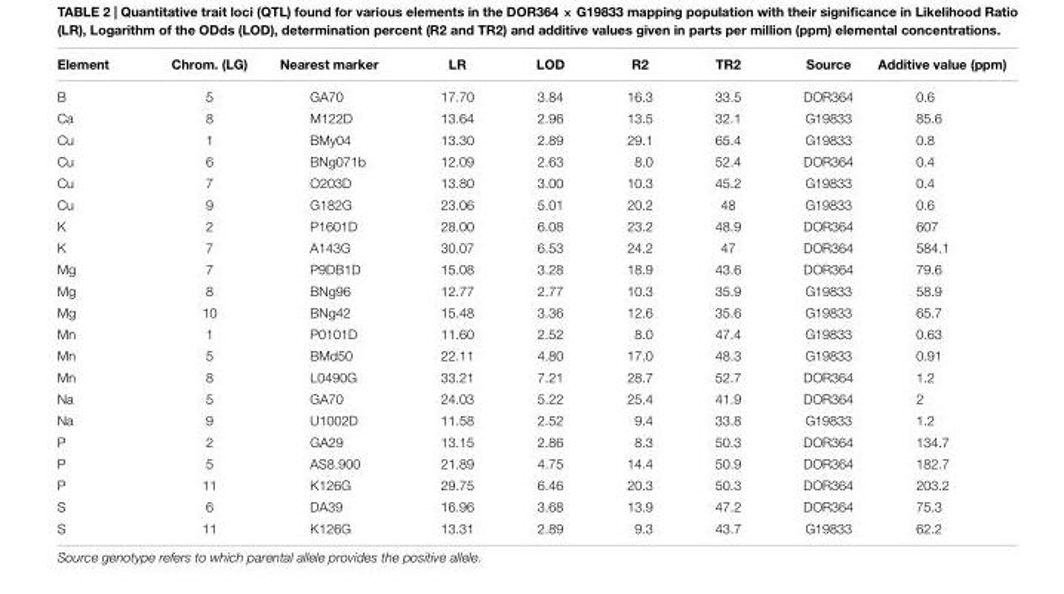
<table><thead><tr><td>Element</td><td>Chrom. (LG)</td><td>Nearest marker</td><td>LR</td><td>LOD</td><td>R2</td><td>TR2</td><td>Source</td><td>Additive value (ppm)</td></tr></thead><tbody><tr><td>B</td><td>5</td><td>GA70</td><td>17.70</td><td>3.84</td><td>16.3</td><td>33.5</td><td>DOR364</td><td>0.6</td></tr><tr><td>Ca</td><td>8</td><td>M122D</td><td>13.64</td><td>2.96</td><td>13.5</td><td>32.1</td><td>G19833</td><td>85.6</td></tr><tr><td>Cu</td><td>1</td><td>BMy04</td><td>13.30</td><td>2.89</td><td>29.1</td><td>65.4</td><td>G19833</td><td>0.8</td></tr><tr><td>Cu</td><td>6</td><td>BNg071b</td><td>12.09</td><td>2.63</td><td>8.0</td><td>52.4</td><td>DOR364</td><td>0.4</td></tr><tr><td>Cu</td><td>7</td><td>O203D</td><td>13.80</td><td>3.00</td><td>10.3</td><td>45.2</td><td>G19833</td><td>0.4</td></tr><tr><td>Cu</td><td>9</td><td>G182G</td><td>23.06</td><td>5.01</td><td>20.2</td><td>48</td><td>G19833</td><td>0.6</td></tr><tr><td>K</td><td>2</td><td>P1601D</td><td>28.00</td><td>6.08</td><td>23.2</td><td>48.9</td><td>DOR364</td><td>607</td></tr><tr><td>K</td><td>7</td><td>A143G</td><td>30.07</td><td>6.53</td><td>24.2</td><td>47</td><td>DOR364</td><td>584.1</td></tr><tr><td>Mg</td><td>7</td><td>P9DB1D</td><td>15.08</td><td>3.28</td><td>18.9</td><td>43.6</td><td>DOR364</td><td>79.6</td></tr><tr><td>Mg</td><td>8</td><td>BNg96</td><td>12.77</td><td>2.77</td><td>10.3</td><td>35.9</td><td>G19833</td><td>58.9</td></tr><tr><td>Mg</td><td>10</td><td>BNg42</td><td>15.48</td><td>3.36</td><td>12.6</td><td>35.6</td><td>G19833</td><td>65.7</td></tr><tr><td>Mn</td><td>1</td><td>P0101D</td><td>11.60</td><td>2.52</td><td>8.0</td><td>47.4</td><td>G19833</td><td>0.63</td></tr><tr><td>Mn</td><td>5</td><td>BMd50</td><td>22.11</td><td>4.80</td><td>17.0</td><td>48.3</td><td>G19833</td><td>0.91</td></tr><tr><td>Mn</td><td>8</td><td>L0490G</td><td>33.21</td><td>7.21</td><td>28.7</td><td>52.7</td><td>DOR364</td><td>1.2</td></tr><tr><td>Na</td><td>5</td><td>GA70</td><td>24.03</td><td>5.22</td><td>25.4</td><td>41.9</td><td>DOR364</td><td>2</td></tr><tr><td>Na</td><td>9</td><td>U1002D</td><td>11.58</td><td>2.52</td><td>9.4</td><td>33.8</td><td>G19833</td><td>1.2</td></tr><tr><td>P</td><td>2</td><td>GA29</td><td>13.15</td><td>2.86</td><td>8.3</td><td>50.3</td><td>DOR364</td><td>134.7</td></tr><tr><td>P</td><td>5</td><td>AS8.900</td><td>21.89</td><td>4.75</td><td>14.4</td><td>50.9</td><td>DOR364</td><td>182.7</td></tr><tr><td>P</td><td>11</td><td>K126G</td><td>29.75</td><td>6.46</td><td>20.3</td><td>50.3</td><td>DOR364</td><td>203.2</td></tr><tr><td>S</td><td>6</td><td>DA39</td><td>16.96</td><td>3.68</td><td>13.9</td><td>47.2</td><td>DOR364</td><td>75.3</td></tr><tr><td>S</td><td>11</td><td>K126G</td><td>13.31</td><td>2.89</td><td>9.3</td><td>43.7</td><td>G19833</td><td>62.2</td></tr></tbody></table>